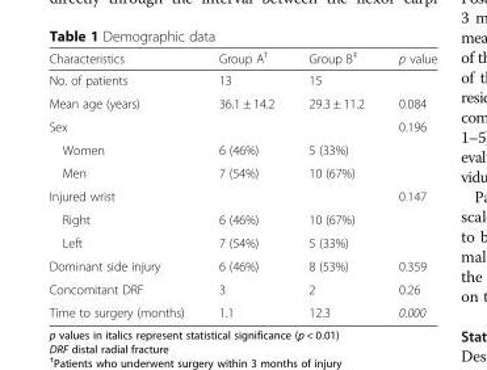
<table><thead><tr><td>Characteristics</td><td>Group A<sup>†</sup></td><td>Group B<sup>‡</sup></td><td>p value</td></tr></thead><tbody><tr><td>No. of patients</td><td>13</td><td>15</td><td></td></tr><tr><td>Mean age (years)</td><td>36.1 ± 14.2</td><td>29.3 ± 11.2</td><td>0.084</td></tr><tr><td>Sex</td><td></td><td></td><td>0.196</td></tr><tr><td>Women</td><td>6 (46%)</td><td>5 (33%)</td><td></td></tr><tr><td>Men</td><td>7 (54%)</td><td>10 (67%)</td><td></td></tr><tr><td>Injured wrist</td><td></td><td></td><td>0.147</td></tr><tr><td>Right</td><td>6 (46%)</td><td>10 (67%)</td><td></td></tr><tr><td>Left</td><td>7 (54%)</td><td>5 (33%)</td><td></td></tr><tr><td>Dominant side injury</td><td>6 (46%)</td><td>8 (53%)</td><td>0.359</td></tr><tr><td>Concomitant DRF</td><td>3</td><td>2</td><td>0.26</td></tr><tr><td>Time to surgery (months)</td><td>1.1</td><td>12.3</td><td>0.000</td></tr></tbody></table>